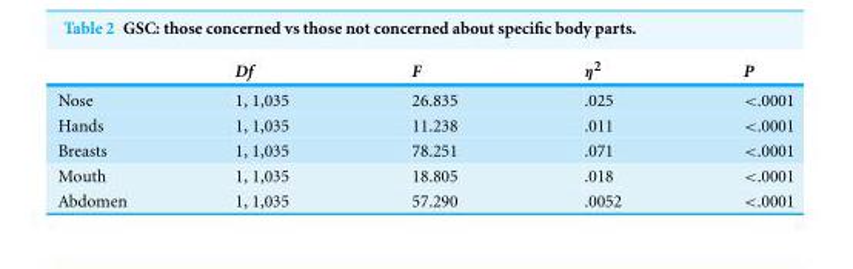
<table><thead><tr><td></td><td>Df</td><td>F</td><td>η<sup>2</sup></td><td>P</td></tr></thead><tbody><tr><td>Nose</td><td>1, 1,035</td><td>26.835</td><td>.025</td><td>&lt;.0001</td></tr><tr><td>Hands</td><td>1, 1,035</td><td>11.238</td><td>.011</td><td>&lt;.0001</td></tr><tr><td>Breasts</td><td>1, 1,035</td><td>78.251</td><td>.071</td><td>&lt;.0001</td></tr><tr><td>Mouth</td><td>1, 1,035</td><td>18.805</td><td>.018</td><td>&lt;.0001</td></tr><tr><td>Abdomen</td><td>1, 1,035</td><td>57.290</td><td>.0052</td><td>&lt;.0001</td></tr></tbody></table>